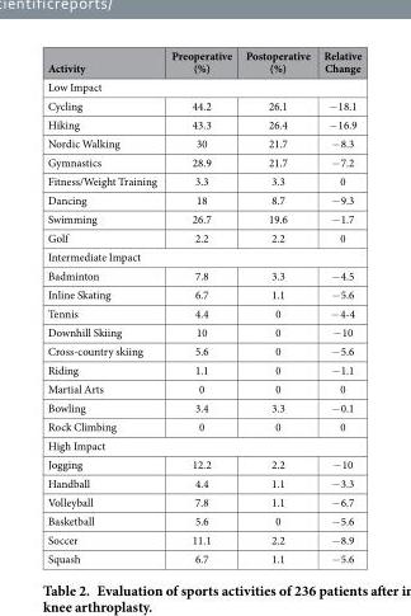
<table><thead><tr><td>Activity</td><td>Preoperative (%)</td><td>Postoperative (%)</td><td>Relative Change</td></tr></thead><tbody><tr><td colspan="4">Low Impact</td></tr><tr><td>Cycling</td><td>44.2</td><td>26.1</td><td>− 18.1</td></tr><tr><td>Hiking</td><td>43.3</td><td>26.4</td><td>− 16.9</td></tr><tr><td>Nordic Walking</td><td>30</td><td>21.7</td><td>− 8.3</td></tr><tr><td>Gymnastics</td><td>28.9</td><td>21.7</td><td>− 7.2</td></tr><tr><td>Fitness/Weight Training</td><td>3.3</td><td>3.3</td><td>0</td></tr><tr><td>Dancing</td><td>18</td><td>8.7</td><td>− 9.3</td></tr><tr><td>Swimming</td><td>26.7</td><td>19.6</td><td>− 1.7</td></tr><tr><td>Golf</td><td>2.2</td><td>2.2</td><td>0</td></tr><tr><td colspan="4">Intermediate Impact</td></tr><tr><td>Badminton</td><td>7.8</td><td>3.3</td><td>− 4.5</td></tr><tr><td>Inline Skating</td><td>6.7</td><td>1.1</td><td>− 5.6</td></tr><tr><td>Tennis</td><td>4.4</td><td>0</td><td>− 4-4</td></tr><tr><td>Downhill Skiing</td><td>10</td><td>0</td><td>− 10</td></tr><tr><td>Cross-country skiing</td><td>5.6</td><td>0</td><td>− 5.6</td></tr><tr><td>Riding</td><td>1.1</td><td>0</td><td>− 1.1</td></tr><tr><td>Martial Arts</td><td>0</td><td>0</td><td>0</td></tr><tr><td>Bowling</td><td>3.4</td><td>3.3</td><td>− 0.1</td></tr><tr><td>Rock Climbing</td><td>0</td><td>0</td><td>0</td></tr><tr><td colspan="4">High Impact</td></tr><tr><td>Jogging</td><td>12.2</td><td>2.2</td><td>− 10</td></tr><tr><td>Handball</td><td>4.4</td><td>1.1</td><td>− 3.3</td></tr><tr><td>Volleyball</td><td>7.8</td><td>1.1</td><td>− 6.7</td></tr><tr><td>Basketball</td><td>5.6</td><td>0</td><td>− 5.6</td></tr><tr><td>Soccer</td><td>11.1</td><td>2.2</td><td>− 8.9</td></tr><tr><td>Squash</td><td>6.7</td><td>1.1</td><td>− 5.6</td></tr></tbody></table>